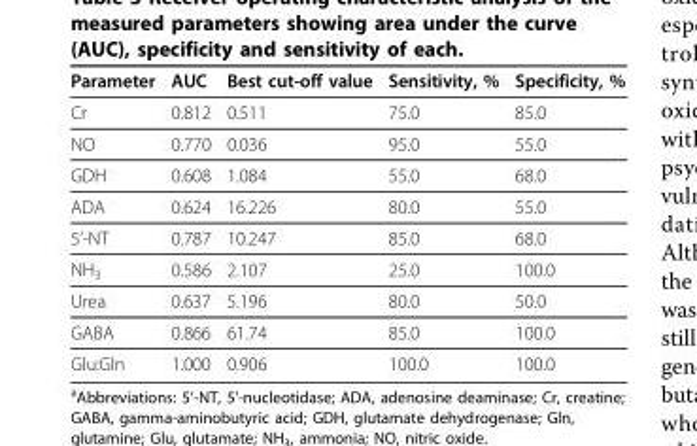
<table><thead><tr><td>Parameter</td><td>AUC</td><td>Best cut-off value</td><td>Sensitivity, %</td><td>Specificity, %</td></tr></thead><tbody><tr><td>Cr</td><td>0.812</td><td>0.511</td><td>75.0</td><td>85.0</td></tr><tr><td>NO</td><td>0.770</td><td>0.036</td><td>95.0</td><td>55.0</td></tr><tr><td>GDH</td><td>0.608</td><td>1.084</td><td>55.0</td><td>68.0</td></tr><tr><td>ADA</td><td>0.624</td><td>16.226</td><td>80.0</td><td>55.0</td></tr><tr><td>5’-NT</td><td>0.787</td><td>10.247</td><td>85.0</td><td>68.0</td></tr><tr><td>NH<sub>3</sub></td><td>0.586</td><td>2.107</td><td>25.0</td><td>100.0</td></tr><tr><td>Urea</td><td>0.637</td><td>5.196</td><td>80.0</td><td>50.0</td></tr><tr><td>GABA</td><td>0.866</td><td>61.74</td><td>85.0</td><td>100.0</td></tr><tr><td>Glu:Gln</td><td>1.000</td><td>0.906</td><td>100.0</td><td>100.0</td></tr></tbody></table>